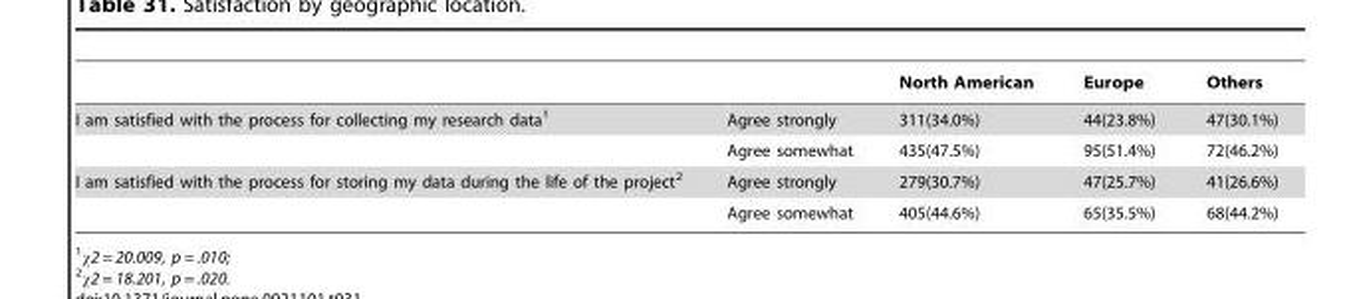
<table><thead><tr><td></td><td></td><td>North American</td><td>Europe</td><td>Others</td></tr></thead><tbody><tr><td rowspan="2">I am satisfied with the process for collecting my research data<sup>1</sup></td><td>Agree strongly</td><td>311(34.0%)</td><td>44(23.8%)</td><td>47(30.1%)</td></tr><tr><td>Agree somewhat</td><td>435(47.5%)</td><td>95(51.4%)</td><td>72(46.2%)</td></tr><tr><td rowspan="2">I am satisfied with the process for storing my data during the life of the project<sup>2</sup></td><td>Agree strongly</td><td>279(30.7%)</td><td>47(25.7%)</td><td>41(26.6%)</td></tr><tr><td>Agree somewhat</td><td>405(44.6%)</td><td>65(35.5%)</td><td>68(44.2%)</td></tr></tbody></table>